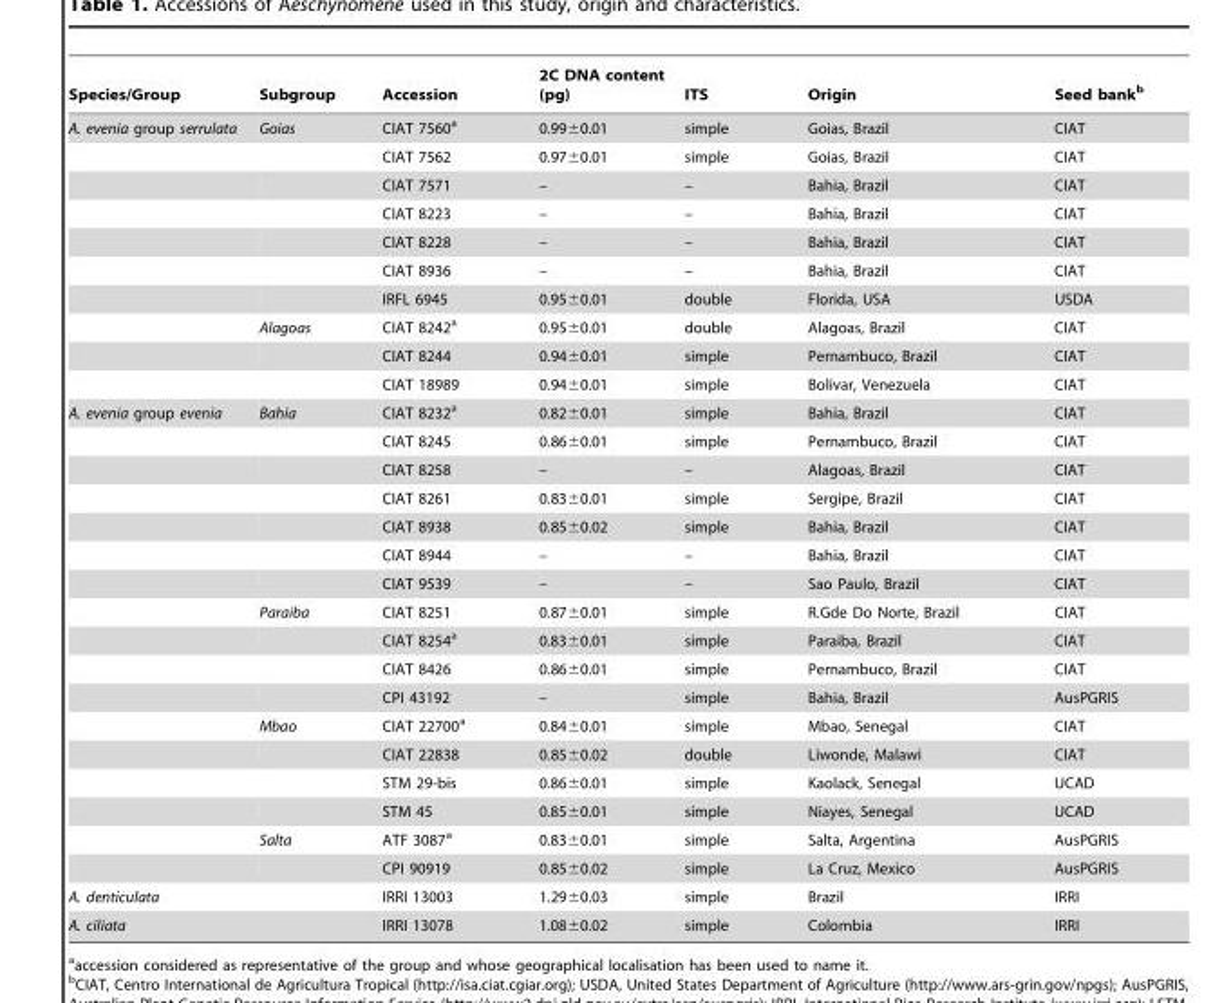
<table><thead><tr><td>Species/Group</td><td>Subgroup</td><td>Accession</td><td>2C DNA content (pg)</td><td>ITS</td><td>Origin</td><td>Seed bank<sup>b</sup></td></tr></thead><tbody><tr><td rowspan="10">A. evenia group serrulata</td><td>Goias</td><td>CIAT 7560<sup>a</sup></td><td>0.99±0.01</td><td>simple</td><td>Goias, Brazil</td><td>CIAT</td></tr><tr><td></td><td>CIAT 7562</td><td>0.97±0.01</td><td>simple</td><td>Goias, Brazil</td><td>CIAT</td></tr><tr><td></td><td>CIAT 7571</td><td>–</td><td>–</td><td>Bahia, Brazil</td><td>CIAT</td></tr><tr><td></td><td>CIAT 8223</td><td>–</td><td>–</td><td>Bahia, Brazil</td><td>CIAT</td></tr><tr><td></td><td>CIAT 8228</td><td>–</td><td>–</td><td>Bahia, Brazil</td><td>CIAT</td></tr><tr><td></td><td>CIAT 8936</td><td>–</td><td>–</td><td>Bahia, Brazil</td><td>CIAT</td></tr><tr><td></td><td>IRFL 6945</td><td>0.95±0.01</td><td>double</td><td>Florida, USA</td><td>USDA</td></tr><tr><td>Alagoas</td><td>CIAT 8242<sup>a</sup></td><td>0.95±0.01</td><td>double</td><td>Alagoas, Brazil</td><td>CIAT</td></tr><tr><td></td><td>CIAT 8244</td><td>0.94±0.01</td><td>simple</td><td>Pernambuco, Brazil</td><td>CIAT</td></tr><tr><td></td><td>CIAT 18989</td><td>0.94±0.01</td><td>simple</td><td>Bolivar, Venezuela</td><td>CIAT</td></tr><tr><td rowspan="17">A. evenia group evenia</td><td>Bahia</td><td>CIAT 8232<sup>a</sup></td><td>0.82±0.01</td><td>simple</td><td>Bahia, Brazil</td><td>CIAT</td></tr><tr><td></td><td>CIAT 8245</td><td>0.86±0.01</td><td>simple</td><td>Pernambuco, Brazil</td><td>CIAT</td></tr><tr><td></td><td>CIAT 8258</td><td>–</td><td>–</td><td>Alagoas, Brazil</td><td>CIAT</td></tr><tr><td></td><td>CIAT 8261</td><td>0.83±0.01</td><td>simple</td><td>Sergipe, Brazil</td><td>CIAT</td></tr><tr><td></td><td>CIAT 8938</td><td>0.85±0.02</td><td>simple</td><td>Bahia, Brazil</td><td>CIAT</td></tr><tr><td></td><td>CIAT 8944</td><td>–</td><td>–</td><td>Bahia, Brazil</td><td>CIAT</td></tr><tr><td></td><td>CIAT 9539</td><td>–</td><td>–</td><td>Sao Paulo, Brazil</td><td>CIAT</td></tr><tr><td>Paraiba</td><td>CIAT 8251</td><td>0.87±0.01</td><td>simple</td><td>R.Gde Do Norte, Brazil</td><td>CIAT</td></tr><tr><td></td><td>CIAT 8254<sup>a</sup></td><td>0.83±0.01</td><td>simple</td><td>Paraiba, Brazil</td><td>CIAT</td></tr><tr><td></td><td>CIAT 8426</td><td>0.86±0.01</td><td>simple</td><td>Pernambuco, Brazil</td><td>CIAT</td></tr><tr><td></td><td>CPI 43192</td><td>–</td><td>simple</td><td>Bahia, Brazil</td><td>AusPGRIS</td></tr><tr><td>Mbao</td><td>CIAT 22700<sup>a</sup></td><td>0.84±0.01</td><td>simple</td><td>Mbao, Senegal</td><td>CIAT</td></tr><tr><td></td><td>CIAT 22838</td><td>0.85±0.02</td><td>double</td><td>Liwonde, Malawi</td><td>CIAT</td></tr><tr><td></td><td>STM 29-bis</td><td>0.86±0.01</td><td>simple</td><td>Kaolack, Senegal</td><td>UCAD</td></tr><tr><td></td><td>STM 45</td><td>0.85±0.01</td><td>simple</td><td>Niayes, Senegal</td><td>UCAD</td></tr><tr><td>Salta</td><td>ATF 3087<sup>a</sup></td><td>0.83±0.01</td><td>simple</td><td>Salta, Argentina</td><td>AusPGRIS</td></tr><tr><td></td><td>CPI 90919</td><td>0.85±0.02</td><td>simple</td><td>La Cruz, Mexico</td><td>AusPGRIS</td></tr><tr><td colspan="2">A. denticulata</td><td>IRRI 13003</td><td>1.29±0.03</td><td>simple</td><td>Brazil</td><td>IRRI</td></tr><tr><td colspan="2">A. ciliata</td><td>IRRI 13078</td><td>1.08±0.02</td><td>simple</td><td>Colombia</td><td>IRRI</td></tr></tbody></table>